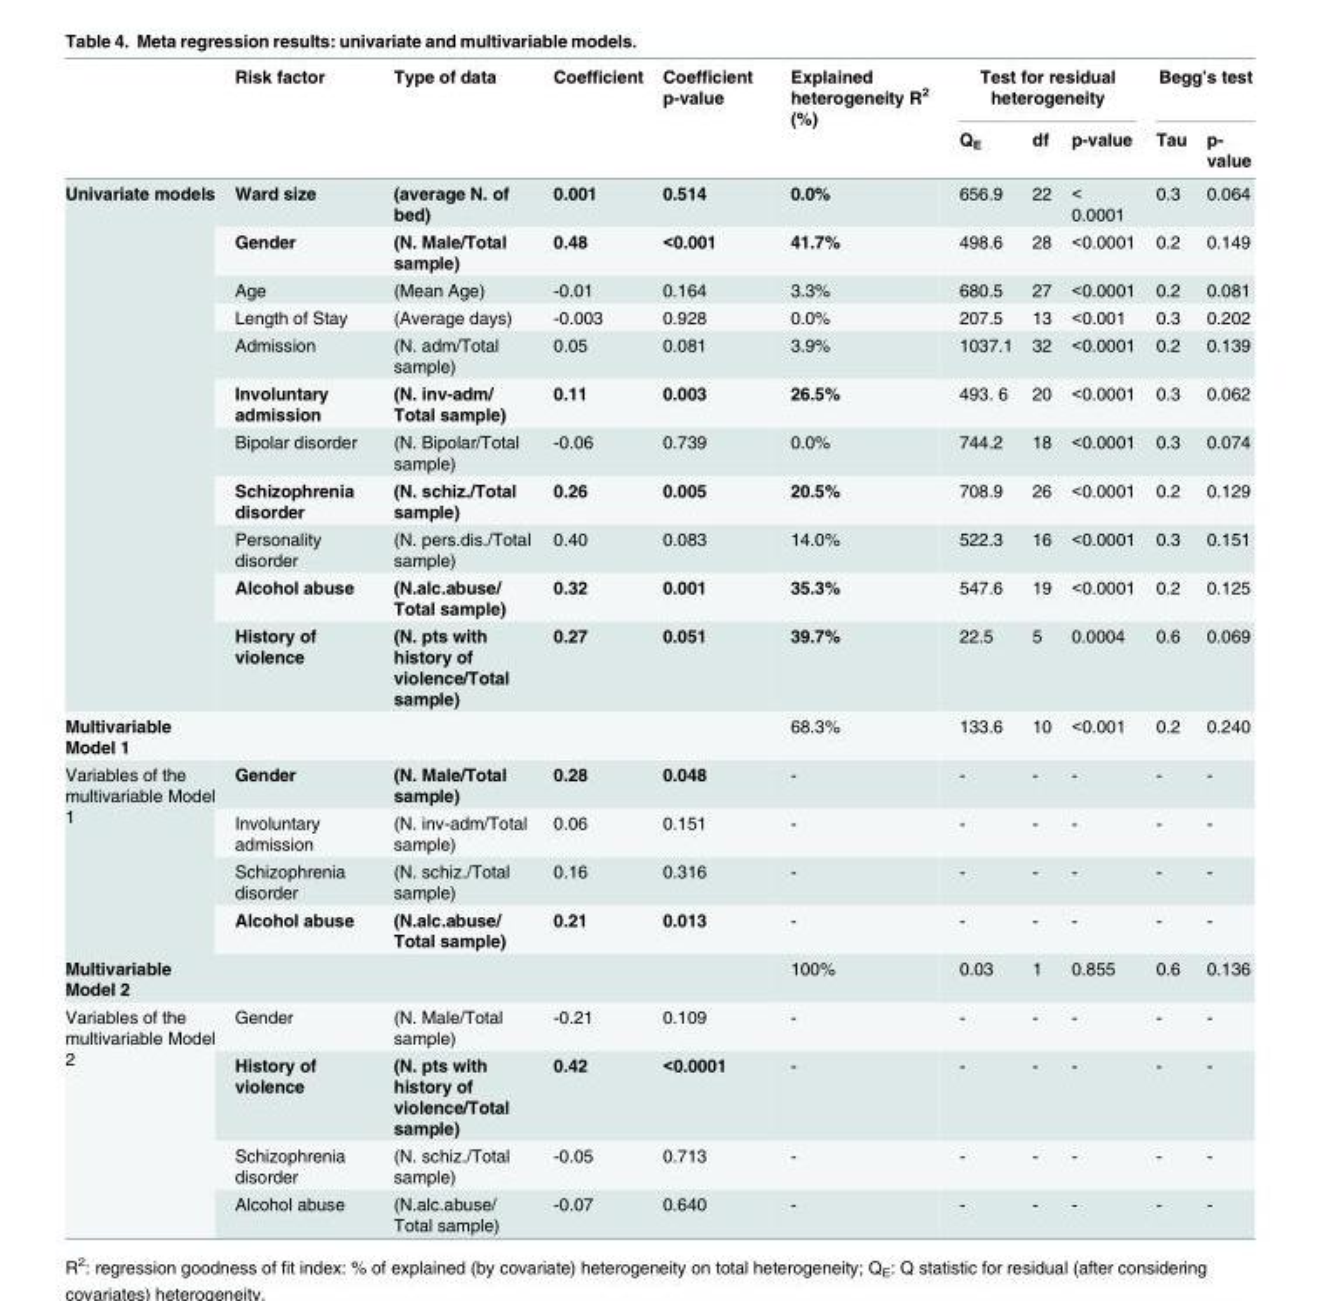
<table><thead><tr><td rowspan="2"></td><td rowspan="2">Risk factor</td><td rowspan="2">Type of data</td><td rowspan="2">Coefficient</td><td rowspan="2">Coefficient p-value</td><td rowspan="2">Explained heterogeneity R<sup>2</sup> (%)</td><td colspan="3">Test for residual heterogeneity</td><td colspan="2">Begg’s test</td></tr><tr><td>Q<sub>E</sub></td><td>df</td><td>p-value</td><td>Tau</td><td>p- value</td></tr></thead><tbody><tr><td rowspan="11">Univariate models</td><td>Ward size</td><td>(average N. of bed)</td><td>0.001</td><td>0.514</td><td>0.0%</td><td>656.9</td><td>22</td><td>&lt; 0.0001</td><td>0.3</td><td>0.064</td></tr><tr><td>Gender</td><td>(N. Male/Total sample)</td><td>0.48</td><td>&lt;0.001</td><td>41.7%</td><td>498.6</td><td>28</td><td>&lt;0.0001</td><td>0.2</td><td>0.149</td></tr><tr><td>Age</td><td>(Mean Age)</td><td>-0.01</td><td>0.164</td><td>3.3%</td><td>680.5</td><td>27</td><td>&lt;0.0001</td><td>0.2</td><td>0.081</td></tr><tr><td>Length of Stay</td><td>(Average days)</td><td>-0.003</td><td>0.928</td><td>0.0%</td><td>207.5</td><td>13</td><td>&lt;0.001</td><td>0.3</td><td>0.202</td></tr><tr><td>Admission</td><td>(N. adm/Total sample)</td><td>0.05</td><td>0.081</td><td>3.9%</td><td>1037.1</td><td>32</td><td>&lt;0.0001</td><td>0.2</td><td>0.139</td></tr><tr><td>Involuntary admission</td><td>(N. inv-adm/ Total sample)</td><td>0.11</td><td>0.003</td><td>26.5%</td><td>493. 6</td><td>20</td><td>&lt;0.0001</td><td>0.3</td><td>0.062</td></tr><tr><td>Bipolar disorder</td><td>(N. Bipolar/Total sample)</td><td>-0.06</td><td>0.739</td><td>0.0%</td><td>744.2</td><td>18</td><td>&lt;0.0001</td><td>0.3</td><td>0.074</td></tr><tr><td>Schizophrenia disorder</td><td>(N. schiz./Total sample)</td><td>0.26</td><td>0.005</td><td>20.5%</td><td>708.9</td><td>26</td><td>&lt;0.0001</td><td>0.2</td><td>0.129</td></tr><tr><td>Personality disorder</td><td>(N. pers.dis./Total sample)</td><td>0.40</td><td>0.083</td><td>14.0%</td><td>522.3</td><td>16</td><td>&lt;0.0001</td><td>0.3</td><td>0.151</td></tr><tr><td>Alcohol abuse</td><td>(N.alc.abuse/ Total sample)</td><td>0.32</td><td>0.001</td><td>35.3%</td><td>547.6</td><td>19</td><td>&lt;0.0001</td><td>0.2</td><td>0.125</td></tr><tr><td>History of violence</td><td>(N. pts with history of violence/Total sample)</td><td>0.27</td><td>0.051</td><td>39.7%</td><td>22.5</td><td>5</td><td>0.0004</td><td>0.6</td><td>0.069</td></tr><tr><td>Multivariable Model 1</td><td></td><td></td><td></td><td></td><td>68.3%</td><td>133.6</td><td>10</td><td>&lt;0.001</td><td>0.2</td><td>0.240</td></tr><tr><td rowspan="4">Variables of the multivariable Model 1</td><td>Gender</td><td>(N. Male/Total sample)</td><td>0.28</td><td>0.048</td><td>-</td><td>-</td><td>-</td><td>-</td><td>-</td><td>-</td></tr><tr><td>Involuntary admission</td><td>(N. inv-adm/Total sample)</td><td>0.06</td><td>0.151</td><td>-</td><td>-</td><td>-</td><td>-</td><td>-</td><td>-</td></tr><tr><td>Schizophrenia disorder</td><td>(N. schiz./Total sample)</td><td>0.16</td><td>0.316</td><td>-</td><td>-</td><td>-</td><td>-</td><td>-</td><td>-</td></tr><tr><td>Alcohol abuse</td><td>(N.alc.abuse/ Total sample)</td><td>0.21</td><td>0.013</td><td>-</td><td>-</td><td>-</td><td>-</td><td>-</td><td>-</td></tr><tr><td>Multivariable Model 2</td><td></td><td></td><td></td><td></td><td>100%</td><td>0.03</td><td>1</td><td>0.855</td><td>0.6</td><td>0.136</td></tr><tr><td rowspan="4">Variables of the multivariable Model 2</td><td>Gender</td><td>(N. Male/Total sample)</td><td>-0.21</td><td>0.109</td><td>-</td><td>-</td><td>-</td><td>-</td><td>-</td><td>-</td></tr><tr><td>History of violence</td><td>(N. pts with history of violence/Total sample)</td><td>0.42</td><td>&lt;0.0001</td><td>-</td><td>-</td><td>-</td><td>-</td><td>-</td><td>-</td></tr><tr><td>Schizophrenia disorder</td><td>(N. schiz./Total sample)</td><td>-0.05</td><td>0.713</td><td>-</td><td>-</td><td>-</td><td>-</td><td>-</td><td>-</td></tr><tr><td>Alcohol abuse</td><td>(N.alc.abuse/ Total sample)</td><td>-0.07</td><td>0.640</td><td>-</td><td>-</td><td>-</td><td>-</td><td>-</td><td>-</td></tr></tbody></table>